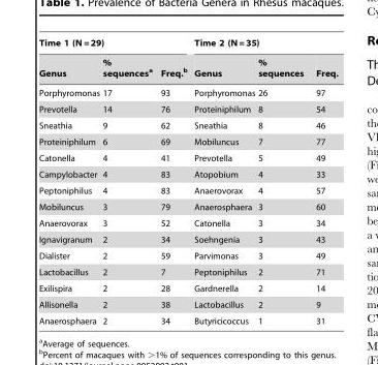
<table><thead><tr><td colspan="3">Time 1 (N = 29)</td><td colspan="3">Time 2 (N = 35)</td></tr><tr><td>Genus</td><td>% sequences<sup>a</sup></td><td>Freq.<sup>b</sup></td><td>Genus</td><td>% sequences</td><td>Freq.</td></tr></thead><tbody><tr><td>Porphyromonas</td><td>17</td><td>93</td><td>Porphyromonas</td><td>26</td><td>97</td></tr><tr><td>Prevotella</td><td>14</td><td>76</td><td>Proteiniphilum</td><td>8</td><td>54</td></tr><tr><td>Sneathia</td><td>9</td><td>62</td><td>Sneathia</td><td>8</td><td>46</td></tr><tr><td>Proteiniphilum</td><td>6</td><td>69</td><td>Mobiluncus</td><td>7</td><td>77</td></tr><tr><td>Catonella</td><td>4</td><td>41</td><td>Prevotella</td><td>5</td><td>49</td></tr><tr><td>Campylobacter</td><td>4</td><td>83</td><td>Atopobium</td><td>4</td><td>33</td></tr><tr><td>Peptoniphilus</td><td>4</td><td>83</td><td>Anaerovorax</td><td>4</td><td>57</td></tr><tr><td>Mobiluncus</td><td>3</td><td>79</td><td>Anaerosphaera</td><td>3</td><td>60</td></tr><tr><td>Anaerovorax</td><td>3</td><td>52</td><td>Catonella</td><td>3</td><td>34</td></tr><tr><td>Ignavigranum</td><td>2</td><td>34</td><td>Soehngenia</td><td>3</td><td>43</td></tr><tr><td>Dialister</td><td>2</td><td>59</td><td>Parvimonas</td><td>3</td><td>49</td></tr><tr><td>Lactobacillus</td><td>2</td><td>7</td><td>Peptoniphilus</td><td>2</td><td>71</td></tr><tr><td>Exilispira</td><td>2</td><td>28</td><td>Gardnerella</td><td>2</td><td>14</td></tr><tr><td>Allisonella</td><td>2</td><td>38</td><td>Lactobacillus</td><td>2</td><td>9</td></tr><tr><td>Anaerosphaera</td><td>2</td><td>34</td><td>Butyricicoccus</td><td>1</td><td>31</td></tr></tbody></table>